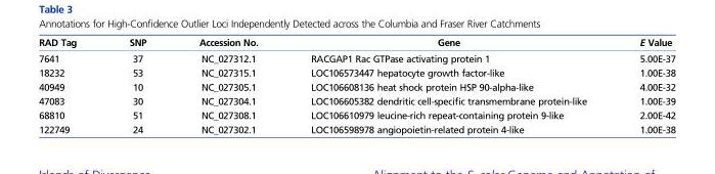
<table><thead><tr><td>RAD Tag</td><td>SNP</td><td>Accession No.</td><td>Gene</td><td>E Value</td></tr></thead><tbody><tr><td>7641</td><td>37</td><td>NC_027312.1</td><td>RACGAP1 Rac GTPase activating protein 1</td><td>5.00E-37</td></tr><tr><td>18232</td><td>53</td><td>NC_027315.1</td><td>LOC106573447 hepatocyte growth factor-like</td><td>1.00E-38</td></tr><tr><td>40949</td><td>10</td><td>NC_027305.1</td><td>LOC106608136 heat shock protein HSP 90-alpha-like</td><td>4.00E-32</td></tr><tr><td>47083</td><td>30</td><td>NC_027304.1</td><td>LOC106605382 dendritic cell-specific transmembrane protein-like</td><td>1.00E-39</td></tr><tr><td>68810</td><td>51</td><td>NC_027308.1</td><td>LOC106610979 leucine-rich repeat-containing protein 9-like</td><td>2.00E-42</td></tr><tr><td>122749</td><td>24</td><td>NC_027302.1</td><td>LOC106598978 angiopoietin-related protein 4-like</td><td>1.00E-38</td></tr></tbody></table>